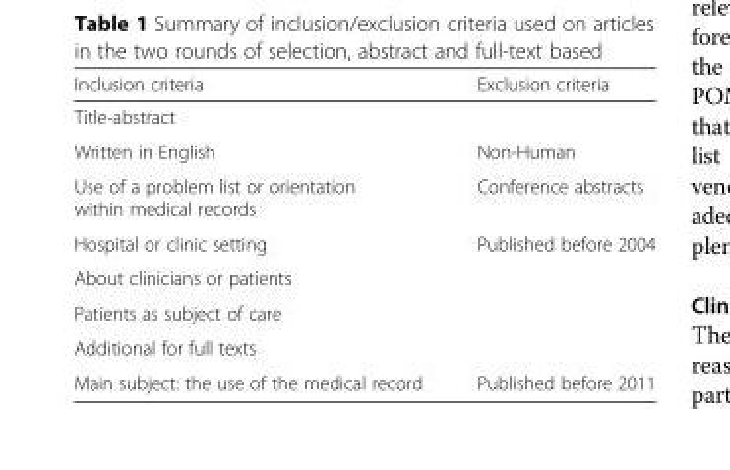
<table><thead><tr><td>Inclusion criteria</td><td>Exclusion criteria</td></tr></thead><tbody><tr><td colspan="2">Title-abstract</td></tr><tr><td>Written in English</td><td>Non-Human</td></tr><tr><td>Use of a problem list or orientation within medical records</td><td>Conference abstracts</td></tr><tr><td>Hospital or clinic setting</td><td>Published before 2004</td></tr><tr><td colspan="2">About clinicians or patients</td></tr><tr><td colspan="2">Patients as subject of care</td></tr><tr><td colspan="2">Additional for full texts</td></tr><tr><td>Main subject: the use of the medical record</td><td>Published before 2011</td></tr></tbody></table>